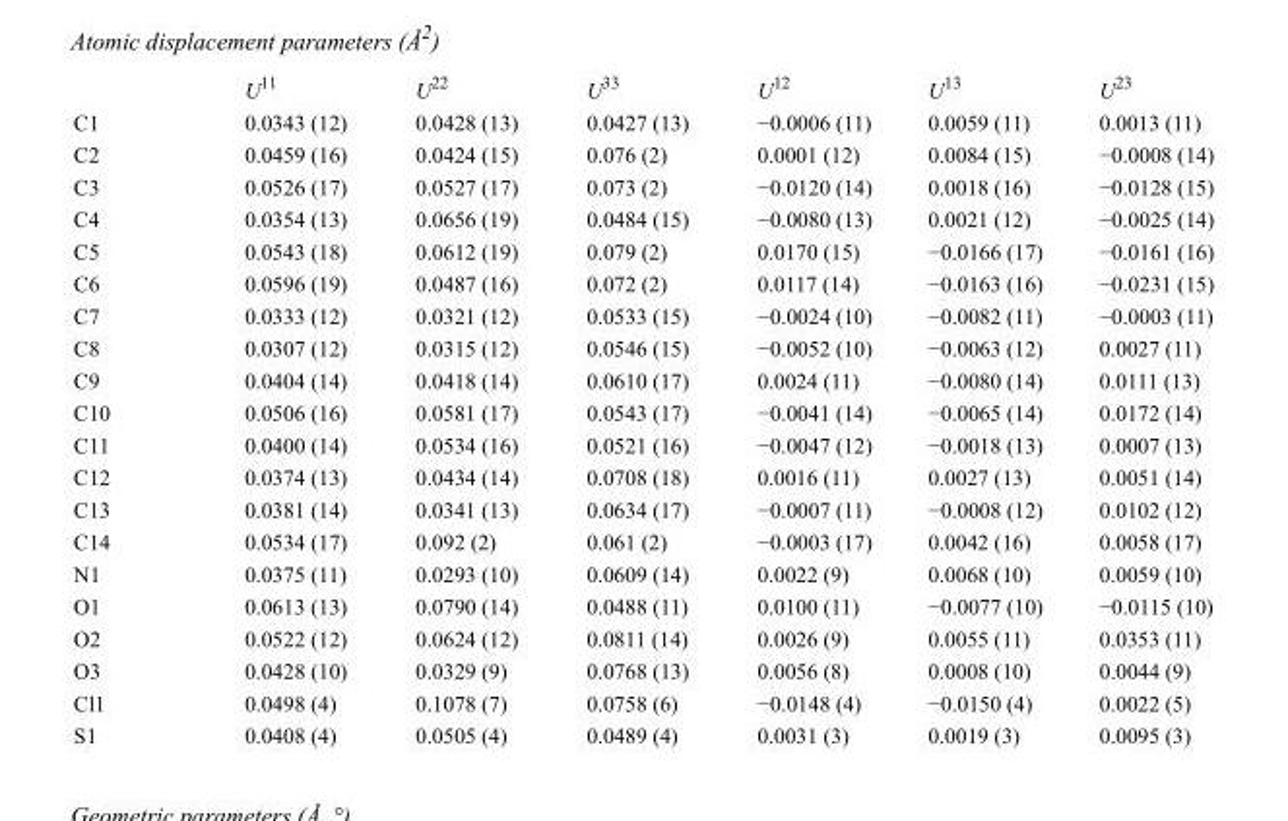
<table><thead><tr><td></td><td>U<sup>11</sup></td><td>U<sup>22</sup></td><td>U<sup>33</sup></td><td>U<sup>12</sup></td><td>U<sup>13</sup></td><td>U<sup>23</sup></td></tr></thead><tbody><tr><td>C1</td><td>0.0343 (12)</td><td>0.0428 (13)</td><td>0.0427 (13)</td><td>−0.0006 (11)</td><td>0.0059 (11)</td><td>0.0013 (11)</td></tr><tr><td>C2</td><td>0.0459 (16)</td><td>0.0424 (15)</td><td>0.076 (2)</td><td>0.0001 (12)</td><td>0.0084 (15)</td><td>−0.0008 (14)</td></tr><tr><td>C3</td><td>0.0526 (17)</td><td>0.0527 (17)</td><td>0.073 (2)</td><td>−0.0120 (14)</td><td>0.0018 (16)</td><td>−0.0128 (15)</td></tr><tr><td>C4</td><td>0.0354 (13)</td><td>0.0656 (19)</td><td>0.0484 (15)</td><td>−0.0080 (13)</td><td>0.0021 (12)</td><td>−0.0025 (14)</td></tr><tr><td>C5</td><td>0.0543 (18)</td><td>0.0612 (19)</td><td>0.079 (2)</td><td>0.0170 (15)</td><td>−0.0166 (17)</td><td>−0.0161 (16)</td></tr><tr><td>C6</td><td>0.0596 (19)</td><td>0.0487 (16)</td><td>0.072 (2)</td><td>0.0117 (14)</td><td>−0.0163 (16)</td><td>−0.0231 (15)</td></tr><tr><td>C7</td><td>0.0333 (12)</td><td>0.0321 (12)</td><td>0.0533 (15)</td><td>−0.0024 (10)</td><td>−0.0082 (11)</td><td>−0.0003 (11)</td></tr><tr><td>C8</td><td>0.0307 (12)</td><td>0.0315 (12)</td><td>0.0546 (15)</td><td>−0.0052 (10)</td><td>−0.0063 (12)</td><td>0.0027 (11)</td></tr><tr><td>C9</td><td>0.0404 (14)</td><td>0.0418 (14)</td><td>0.0610 (17)</td><td>0.0024 (11)</td><td>−0.0080 (14)</td><td>0.0111 (13)</td></tr><tr><td>C10</td><td>0.0506 (16)</td><td>0.0581 (17)</td><td>0.0543 (17)</td><td>−0.0041 (14)</td><td>−0.0065 (14)</td><td>0.0172 (14)</td></tr><tr><td>C11</td><td>0.0400 (14)</td><td>0.0534 (16)</td><td>0.0521 (16)</td><td>−0.0047 (12)</td><td>−0.0018 (13)</td><td>0.0007 (13)</td></tr><tr><td>C12</td><td>0.0374 (13)</td><td>0.0434 (14)</td><td>0.0708 (18)</td><td>0.0016 (11)</td><td>0.0027 (13)</td><td>0.0051 (14)</td></tr><tr><td>C13</td><td>0.0381 (14)</td><td>0.0341 (13)</td><td>0.0634 (17)</td><td>−0.0007 (11)</td><td>−0.0008 (12)</td><td>0.0102 (12)</td></tr><tr><td>C14</td><td>0.0534 (17)</td><td>0.092 (2)</td><td>0.061 (2)</td><td>−0.0003 (17)</td><td>0.0042 (16)</td><td>0.0058 (17)</td></tr><tr><td>N1</td><td>0.0375 (11)</td><td>0.0293 (10)</td><td>0.0609 (14)</td><td>0.0022 (9)</td><td>0.0068 (10)</td><td>0.0059 (10)</td></tr><tr><td>O1</td><td>0.0613 (13)</td><td>0.0790 (14)</td><td>0.0488 (11)</td><td>0.0100 (11)</td><td>−0.0077 (10)</td><td>−0.0115 (10)</td></tr><tr><td>O2</td><td>0.0522 (12)</td><td>0.0624 (12)</td><td>0.0811 (14)</td><td>0.0026 (9)</td><td>0.0055 (11)</td><td>0.0353 (11)</td></tr><tr><td>O3</td><td>0.0428 (10)</td><td>0.0329 (9)</td><td>0.0768 (13)</td><td>0.0056 (8)</td><td>0.0008 (10)</td><td>0.0044 (9)</td></tr><tr><td>Cl1</td><td>0.0498 (4)</td><td>0.1078 (7)</td><td>0.0758 (6)</td><td>−0.0148 (4)</td><td>−0.0150 (4)</td><td>0.0022 (5)</td></tr><tr><td>S1</td><td>0.0408 (4)</td><td>0.0505 (4)</td><td>0.0489 (4)</td><td>0.0031 (3)</td><td>0.0019 (3)</td><td>0.0095 (3)</td></tr></tbody></table>